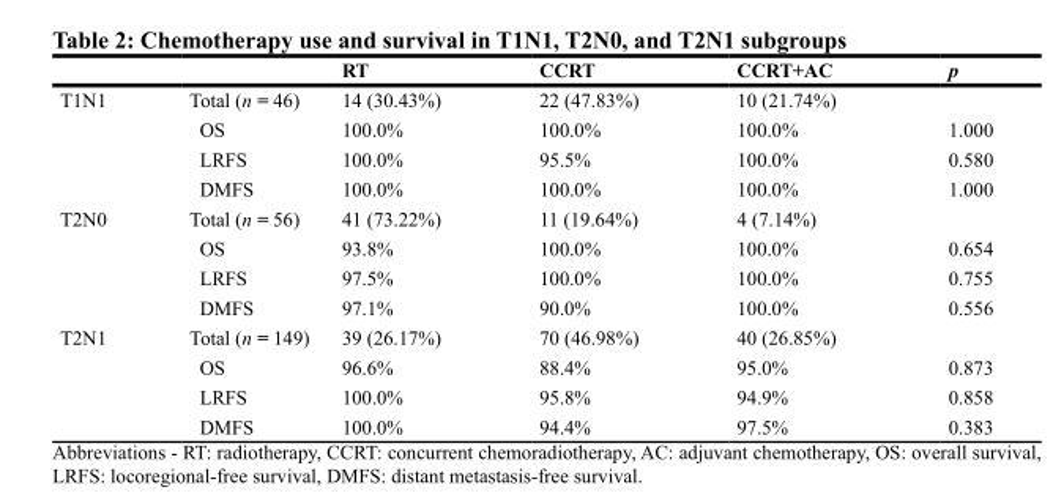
<table><thead><tr><td></td><td></td><td>RT</td><td>CCRT</td><td>CCRT+AC</td><td>p</td></tr></thead><tbody><tr><td rowspan="4">T1N1</td><td>Total (n = 46)</td><td>14 (30.43%)</td><td>22 (47.83%)</td><td>10 (21.74%)</td><td></td></tr><tr><td>OS</td><td>100.0%</td><td>100.0%</td><td>100.0%</td><td>1.000</td></tr><tr><td>LRFS</td><td>100.0%</td><td>95.5%</td><td>100.0%</td><td>0.580</td></tr><tr><td>DMFS</td><td>100.0%</td><td>100.0%</td><td>100.0%</td><td>1.000</td></tr><tr><td rowspan="4">T2N0</td><td>Total (n = 56)</td><td>41 (73.22%)</td><td>11 (19.64%)</td><td>4 (7.14%)</td><td></td></tr><tr><td>OS</td><td>93.8%</td><td>100.0%</td><td>100.0%</td><td>0.654</td></tr><tr><td>LRFS</td><td>97.5%</td><td>100.0%</td><td>100.0%</td><td>0.755</td></tr><tr><td>DMFS</td><td>97.1%</td><td>90.0%</td><td>100.0%</td><td>0.556</td></tr><tr><td rowspan="4">T2N1</td><td>Total (n = 149)</td><td>39 (26.17%)</td><td>70 (46.98%)</td><td>40 (26.85%)</td><td></td></tr><tr><td>OS</td><td>96.6%</td><td>88.4%</td><td>95.0%</td><td>0.873</td></tr><tr><td>LRFS</td><td>100.0%</td><td>95.8%</td><td>94.9%</td><td>0.858</td></tr><tr><td>DMFS</td><td>100.0%</td><td>94.4%</td><td>97.5%</td><td>0.383</td></tr></tbody></table>